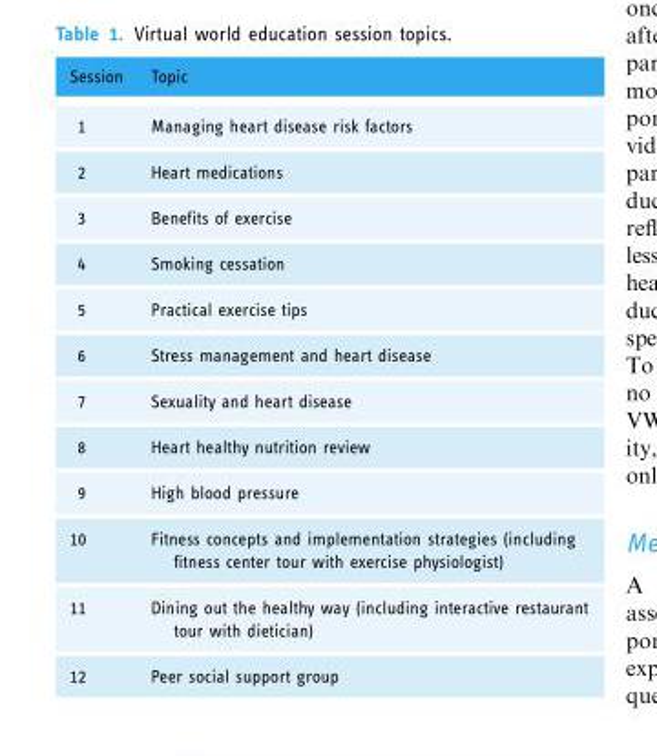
<table><thead><tr><td>Session</td><td>Topic</td></tr></thead><tbody><tr><td>1</td><td>Managing heart disease risk factors</td></tr><tr><td>2</td><td>Heart medications</td></tr><tr><td>3</td><td>Benefits of exercise</td></tr><tr><td>4</td><td>Smoking cessation</td></tr><tr><td>5</td><td>Practical exercise tips</td></tr><tr><td>6</td><td>Stress management and heart disease</td></tr><tr><td>7</td><td>Sexuality and heart disease</td></tr><tr><td>8</td><td>Heart healthy nutrition review</td></tr><tr><td>9</td><td>High blood pressure</td></tr><tr><td>10</td><td>Fitness concepts and implementation strategies (including fitness center tour with exercise physiologist)</td></tr><tr><td>11</td><td>Dining out the healthy way (including interactive restaurant tour with dietician)</td></tr><tr><td>12</td><td>Peer social support group</td></tr></tbody></table>